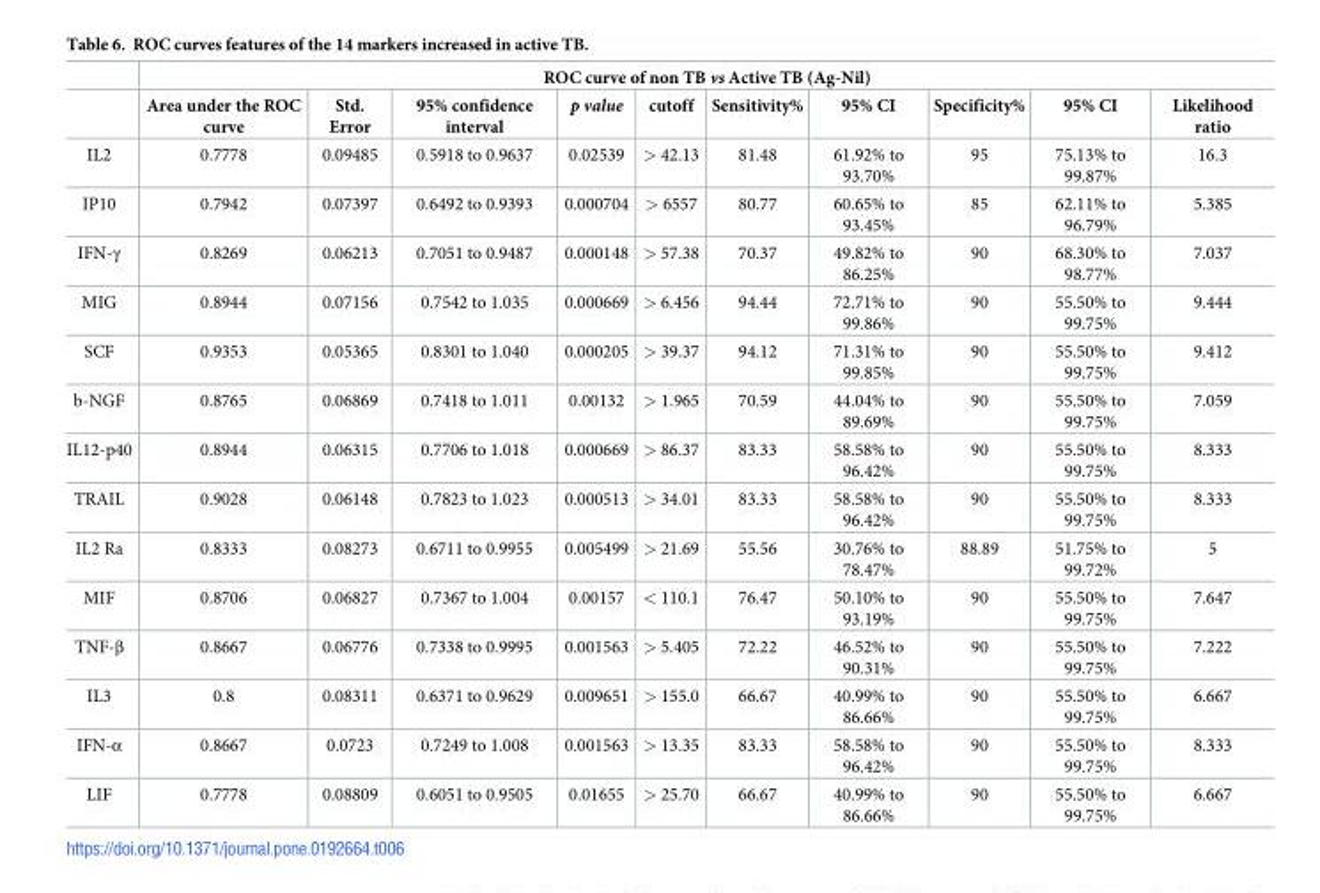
<table><thead><tr><td rowspan="2"></td><td colspan="10">ROC curve of non TB vs Active TB (Ag-Nil)</td></tr><tr><td>Area under the ROC curve</td><td>Std. Error</td><td>95% confidence interval</td><td>p value</td><td>cutoff</td><td>Sensitivity%</td><td>95% CI</td><td>Specificity%</td><td>95% CI</td><td>Likelihood ratio</td></tr></thead><tbody><tr><td>IL2</td><td>0.7778</td><td>0.09485</td><td>0.5918 to 0.9637</td><td>0.02539</td><td>&gt; 42.13</td><td>81.48</td><td>61.92% to 93.70%</td><td>95</td><td>75.13% to 99.87%</td><td>16.3</td></tr><tr><td>IP10</td><td>0.7942</td><td>0.07397</td><td>0.6492 to 0.9393</td><td>0.000704</td><td>&gt; 6557</td><td>80.77</td><td>60.65% to 93.45%</td><td>85</td><td>62.11% to 96.79%</td><td>5.385</td></tr><tr><td>IFN-γ</td><td>0.8269</td><td>0.06213</td><td>0.7051 to 0.9487</td><td>0.000148</td><td>&gt; 57.38</td><td>70.37</td><td>49.82% to 86.25%</td><td>90</td><td>68.30% to 98.77%</td><td>7.037</td></tr><tr><td>MIG</td><td>0.8944</td><td>0.07156</td><td>0.7542 to 1.035</td><td>0.000669</td><td>&gt; 6.456</td><td>94.44</td><td>72.71% to 99.86%</td><td>90</td><td>55.50% to 99.75%</td><td>9.444</td></tr><tr><td>SCF</td><td>0.9353</td><td>0.05365</td><td>0.8301 to 1.040</td><td>0.000205</td><td>&gt; 39.37</td><td>94.12</td><td>71.31% to 99.85%</td><td>90</td><td>55.50% to 99.75%</td><td>9.412</td></tr><tr><td>b-NGF</td><td>0.8765</td><td>0.06869</td><td>0.7418 to 1.011</td><td>0.00132</td><td>&gt; 1.965</td><td>70.59</td><td>44.04% to 89.69%</td><td>90</td><td>55.50% to 99.75%</td><td>7.059</td></tr><tr><td>IL12-p40</td><td>0.8944</td><td>0.06315</td><td>0.7706 to 1.018</td><td>0.000669</td><td>&gt; 86.37</td><td>83.33</td><td>58.58% to 96.42%</td><td>90</td><td>55.50% to 99.75%</td><td>8.333</td></tr><tr><td>TRAIL</td><td>0.9028</td><td>0.06148</td><td>0.7823 to 1.023</td><td>0.000513</td><td>&gt; 34.01</td><td>83.33</td><td>58.58% to 96.42%</td><td>90</td><td>55.50% to 99.75%</td><td>8.333</td></tr><tr><td>IL2 Ra</td><td>0.8333</td><td>0.08273</td><td>0.6711 to 0.9955</td><td>0.005499</td><td>&gt; 21.69</td><td>55.56</td><td>30.76% to 78.47%</td><td>88.89</td><td>51.75% to 99.72%</td><td>5</td></tr><tr><td>MIF</td><td>0.8706</td><td>0.06827</td><td>0.7367 to 1.004</td><td>0.00157</td><td>&lt; 110.1</td><td>76.47</td><td>50.10% to 93.19%</td><td>90</td><td>55.50% to 99.75%</td><td>7.647</td></tr><tr><td>TNF-β</td><td>0.8667</td><td>0.06776</td><td>0.7338 to 0.9995</td><td>0.001563</td><td>&gt; 5.405</td><td>72.22</td><td>46.52% to 90.31%</td><td>90</td><td>55.50% to 99.75%</td><td>7.222</td></tr><tr><td>IL3</td><td>0.8</td><td>0.08311</td><td>0.6371 to 0.9629</td><td>0.009651</td><td>&gt; 155.0</td><td>66.67</td><td>40.99% to 86.66%</td><td>90</td><td>55.50% to 99.75%</td><td>6.667</td></tr><tr><td>IFN-α</td><td>0.8667</td><td>0.0723</td><td>0.7249 to 1.008</td><td>0.001563</td><td>&gt; 13.35</td><td>83.33</td><td>58.58% to 96.42%</td><td>90</td><td>55.50% to 99.75%</td><td>8.333</td></tr><tr><td>LIF</td><td>0.7778</td><td>0.08809</td><td>0.6051 to 0.9505</td><td>0.01655</td><td>&gt; 25.70</td><td>66.67</td><td>40.99% to 86.66%</td><td>90</td><td>55.50% to 99.75%</td><td>6.667</td></tr></tbody></table>